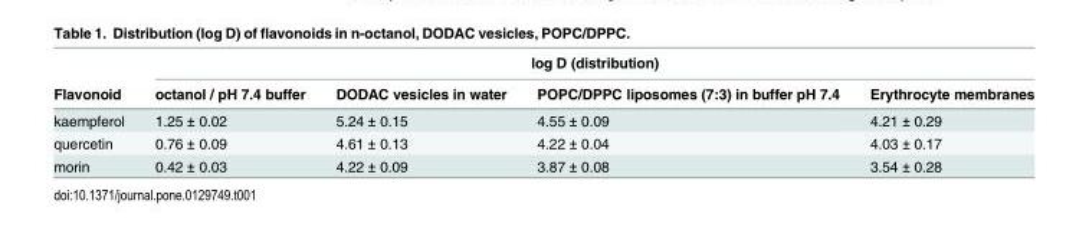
<table><thead><tr><td rowspan="2">Flavonoid</td><td colspan="4">log D (distribution)</td></tr><tr><td>octanol / pH 7.4 buffer</td><td>DODAC vesicles in water</td><td>POPC/DPPC liposomes (7:3) in buffer pH 7.4</td><td>Erythrocyte membranes</td></tr></thead><tbody><tr><td>kaempferol</td><td>1.25 ± 0.02</td><td>5.24 ± 0.15</td><td>4.55 ± 0.09</td><td>4.21 ± 0.29</td></tr><tr><td>quercetin</td><td>0.76 ± 0.09</td><td>4.61 ± 0.13</td><td>4.22 ± 0.04</td><td>4.03 ± 0.17</td></tr><tr><td>morin</td><td>0.42 ± 0.03</td><td>4.22 ± 0.09</td><td>3.87 ± 0.08</td><td>3.54 ± 0.28</td></tr></tbody></table>